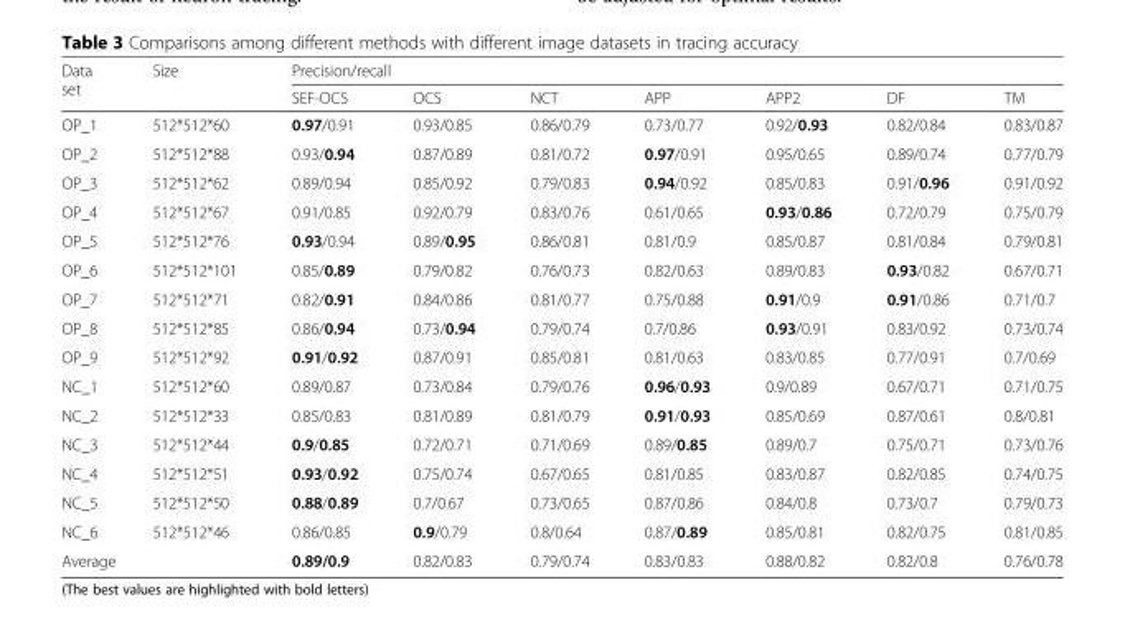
<table><thead><tr><td rowspan="2">Data set</td><td rowspan="2">Size</td><td colspan="7">Precision/recall</td></tr><tr><td>SEF-OCS</td><td>OCS</td><td>NCT</td><td>APP</td><td>APP2</td><td>DF</td><td>TM</td></tr></thead><tbody><tr><td>OP_1</td><td>512*512*60</td><td>0.97/0.91</td><td>0.93/0.85</td><td>0.86/0.79</td><td>0.73/0.77</td><td>0.92/0.93</td><td>0.82/0.84</td><td>0.83/0.87</td></tr><tr><td>OP_2</td><td>512*512*88</td><td>0.93/0.94</td><td>0.87/0.89</td><td>0.81/0.72</td><td>0.97/0.91</td><td>0.95/0.65</td><td>0.89/0.74</td><td>0.77/0.79</td></tr><tr><td>OP_3</td><td>512*512*62</td><td>0.89/0.94</td><td>0.85/0.92</td><td>0.79/0.83</td><td>0.94/0.92</td><td>0.85/0.83</td><td>0.91/0.96</td><td>0.91/0.92</td></tr><tr><td>OP_4</td><td>512*512*67</td><td>0.91/0.85</td><td>0.92/0.79</td><td>0.83/0.76</td><td>0.61/0.65</td><td>0.93/0.86</td><td>0.72/0.79</td><td>0.75/0.79</td></tr><tr><td>OP_5</td><td>512*512*76</td><td>0.93/0.94</td><td>0.89/0.95</td><td>0.86/0.81</td><td>0.81/0.9</td><td>0.85/0.87</td><td>0.81/0.84</td><td>0.79/0.81</td></tr><tr><td>OP_6</td><td>512*512*101</td><td>0.85/0.89</td><td>0.79/0.82</td><td>0.76/0.73</td><td>0.82/0.63</td><td>0.89/0.83</td><td>0.93/0.82</td><td>0.67/0.71</td></tr><tr><td>OP_7</td><td>512*512*71</td><td>0.82/0.91</td><td>0.84/0.86</td><td>0.81/0.77</td><td>0.75/0.88</td><td>0.91/0.9</td><td>0.91/0.86</td><td>0.71/0.7</td></tr><tr><td>OP_8</td><td>512*512*85</td><td>0.86/0.94</td><td>0.73/0.94</td><td>0.79/0.74</td><td>0.7/0.86</td><td>0.93/0.91</td><td>0.83/0.92</td><td>0.73/0.74</td></tr><tr><td>OP_9</td><td>512*512*92</td><td>0.91/0.92</td><td>0.87/0.91</td><td>0.85/0.81</td><td>0.81/0.63</td><td>0.83/0.85</td><td>0.77/0.91</td><td>0.7/0.69</td></tr><tr><td>NC_1</td><td>512*512*60</td><td>0.89/0.87</td><td>0.73/0.84</td><td>0.79/0.76</td><td>0.96/0.93</td><td>0.9/0.89</td><td>0.67/0.71</td><td>0.71/0.75</td></tr><tr><td>NC_2</td><td>512*512*33</td><td>0.85/0.83</td><td>0.81/0.89</td><td>0.81/0.79</td><td>0.91/0.93</td><td>0.85/0.69</td><td>0.87/0.61</td><td>0.8/0.81</td></tr><tr><td>NC_3</td><td>512*512*44</td><td>0.9/0.85</td><td>0.72/0.71</td><td>0.71/0.69</td><td>0.89/0.85</td><td>0.89/0.7</td><td>0.75/0.71</td><td>0.73/0.76</td></tr><tr><td>NC_4</td><td>512*512*51</td><td>0.93/0.92</td><td>0.75/0.74</td><td>0.67/0.65</td><td>0.81/0.85</td><td>0.83/0.87</td><td>0.82/0.85</td><td>0.74/0.75</td></tr><tr><td>NC_5</td><td>512*512*50</td><td>0.88/0.89</td><td>0.7/0.67</td><td>0.73/0.65</td><td>0.87/0.86</td><td>0.84/0.8</td><td>0.73/0.7</td><td>0.79/0.73</td></tr><tr><td>NC_6</td><td>512*512*46</td><td>0.86/0.85</td><td>0.9/0.79</td><td>0.8/0.64</td><td>0.87/0.89</td><td>0.85/0.81</td><td>0.82/0.75</td><td>0.81/0.85</td></tr><tr><td colspan="2">Average</td><td>0.89/0.9</td><td>0.82/0.83</td><td>0.79/0.74</td><td>0.83/0.83</td><td>0.88/0.82</td><td>0.82/0.8</td><td>0.76/0.78</td></tr></tbody></table>